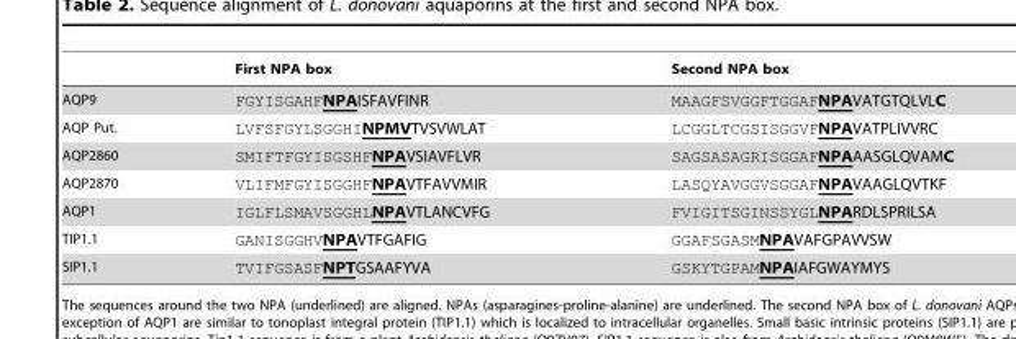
<table><thead><tr><td></td><td>First NPA box</td><td>Second NPA box</td></tr></thead><tbody><tr><td>AQP9</td><td>FGYISGAHFNPAISFAVFINR</td><td>MAAGFSVGGFTGGAFNPAVATGTQLVLC</td></tr><tr><td>AQP Put.</td><td>LVFSFGYLSGGHINPMVTVSVWLAT</td><td>LCGGLTCGSISGGVFNPAVATPLIVVRC</td></tr><tr><td>AQP2860</td><td>SMIFTFGYISGSHFNPAVSIAVFLVR</td><td>SAGSASAGRISGGAFNPAAASGLQVAMC</td></tr><tr><td>AQP2870</td><td>VLIFMFGYISGGHFNPAVTFAVVMIR</td><td>LASQYAVGGVSGGAFNPAVAAGLQVTKF</td></tr><tr><td>AQP1</td><td>IGLFLSMAVSGGHLNPAVTLANCVFG</td><td>FVIGITSGINSSYGLNPARDLSPRILSA</td></tr><tr><td>TIP1.1</td><td>GANISGGHVNPAVTFGAFIG</td><td>GGAFSGASMNPAVAFGPAVVSW</td></tr><tr><td>SIP1.1</td><td>TVIFGSASFNPTGSAAFYVA</td><td>GSKYTGPAMNPAIAFGWAYMYS</td></tr></tbody></table>